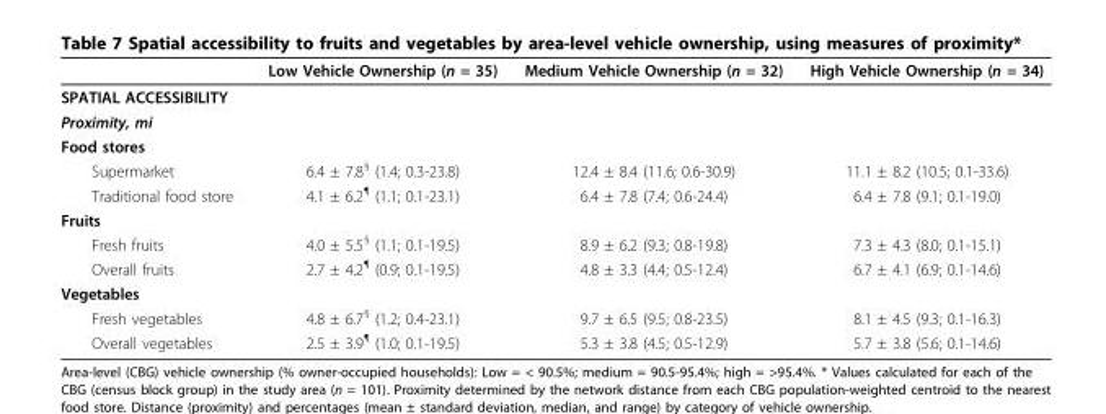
<table><thead><tr><td></td><td>Low Vehicle Ownership (n = 35)</td><td>Medium Vehicle Ownership (n = 32)</td><td>High Vehicle Ownership (n = 34)</td></tr></thead><tbody><tr><td colspan="4">SPATIAL ACCESSIBILITY</td></tr><tr><td colspan="4">Proximity, mi</td></tr><tr><td colspan="4">Food stores</td></tr><tr><td>Supermarket</td><td>6.4 ± 7.8<sup>§</sup> (1.4; 0.3-23.8)</td><td>12.4 ± 8.4 (11.6; 0.6-30.9)</td><td>11.1 ± 8.2 (10.5; 0.1-33.6)</td></tr><tr><td>Traditional food store</td><td>4.1 ± 6.2<sup>¶</sup> (1.1; 0.1-23.1)</td><td>6.4 ± 7.8 (7.4; 0.6-24.4)</td><td>6.4 ± 7.8 (9.1; 0.1-19.0)</td></tr><tr><td colspan="4">Fruits</td></tr><tr><td>Fresh fruits</td><td>4.0 ± 5.5<sup>§</sup> (1.1; 0.1-19.5)</td><td>8.9 ± 6.2 (9.3; 0.8-19.8)</td><td>7.3 ± 4.3 (8.0; 0.1-15.1)</td></tr><tr><td>Overall fruits</td><td>2.7 ± 4.2<sup>¶</sup> (0.9; 0.1-19.5)</td><td>4.8 ± 3.3 (4.4; 0.5-12.4)</td><td>6.7 ± 4.1 (6.9; 0.1-14.6)</td></tr><tr><td colspan="4">Vegetables</td></tr><tr><td>Fresh vegetables</td><td>4.8 ± 6.7<sup>§</sup> (1.2; 0.4-23.1)</td><td>9.7 ± 6.5 (9.5; 0.8-23.5)</td><td>8.1 ± 4.5 (9.3; 0.1-16.3)</td></tr><tr><td>Overall vegetables</td><td>2.5 ± 3.9<sup>¶</sup> (1.0; 0.1-19.5)</td><td>5.3 ± 3.8 (4.5; 0.5-12.9)</td><td>5.7 ± 3.8 (5.6; 0.1-14.6)</td></tr></tbody></table>